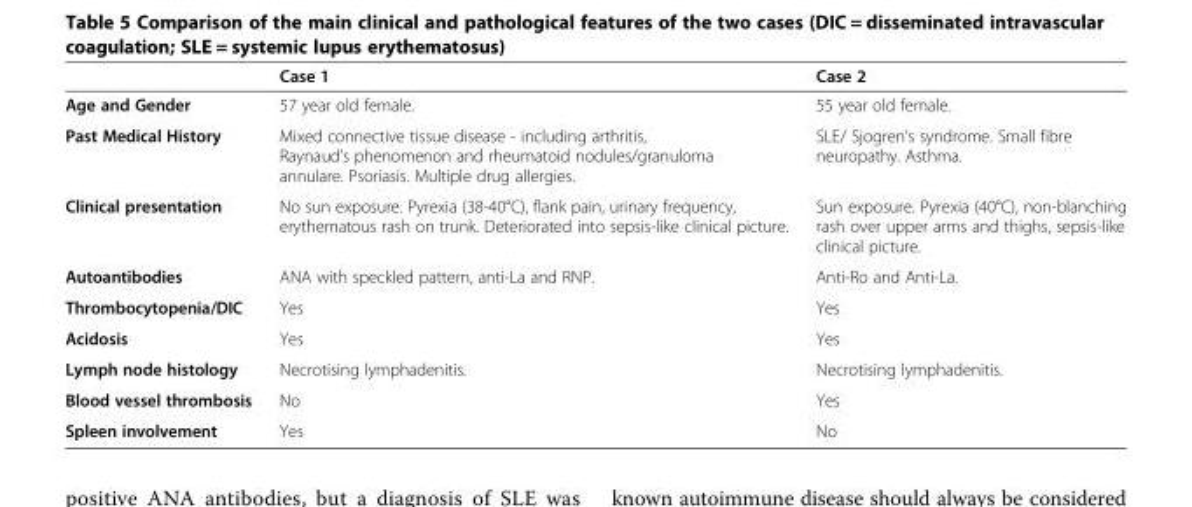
<table><thead><tr><td></td><td>Case 1</td><td>Case 2</td></tr></thead><tbody><tr><td>Age and Gender</td><td>57 year old female.</td><td>55 year old female.</td></tr><tr><td>Past Medical History</td><td>Mixed connective tissue disease - including arthritis, Raynaud’s phenomenon and rheumatoid nodules/granuloma annulare. Psoriasis. Multiple drug allergies.</td><td>SLE/ Sjogren’s syndrome. Small fibre neuropathy. Asthma.</td></tr><tr><td>Clinical presentation</td><td>No sun exposure. Pyrexia (38-40°C), flank pain, urinary frequency, erythematous rash on trunk. Deteriorated into sepsis-like clinical picture.</td><td>Sun exposure. Pyrexia (40°C), non-blanching rash over upper arms and thighs, sepsis-like clinical picture.</td></tr><tr><td>Autoantibodies</td><td>ANA with speckled pattern, anti-La and RNP.</td><td>Anti-Ro and Anti-La.</td></tr><tr><td>Thrombocytopenia/DIC</td><td>Yes</td><td>Yes</td></tr><tr><td>Acidosis</td><td>Yes</td><td>Yes</td></tr><tr><td>Lymph node histology</td><td>Necrotising lymphadenitis.</td><td>Necrotising lymphadenitis.</td></tr><tr><td>Blood vessel thrombosis</td><td>No</td><td>Yes</td></tr><tr><td>Spleen involvement</td><td>Yes</td><td>No</td></tr></tbody></table>